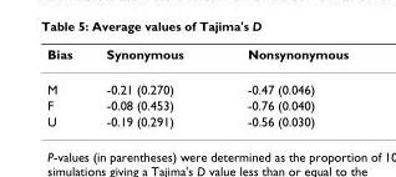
<table><thead><tr><td>Bias</td><td>Synonymous</td><td>Nonsynonymous</td></tr></thead><tbody><tr><td>M</td><td>-0.21 (0.270)</td><td>-0.47 (0.046)</td></tr><tr><td>F</td><td>-0.08 (0.453)</td><td>-0.76 (0.040)</td></tr><tr><td>U</td><td>-0.19 (0.291)</td><td>-0.56 (0.030)</td></tr></tbody></table>